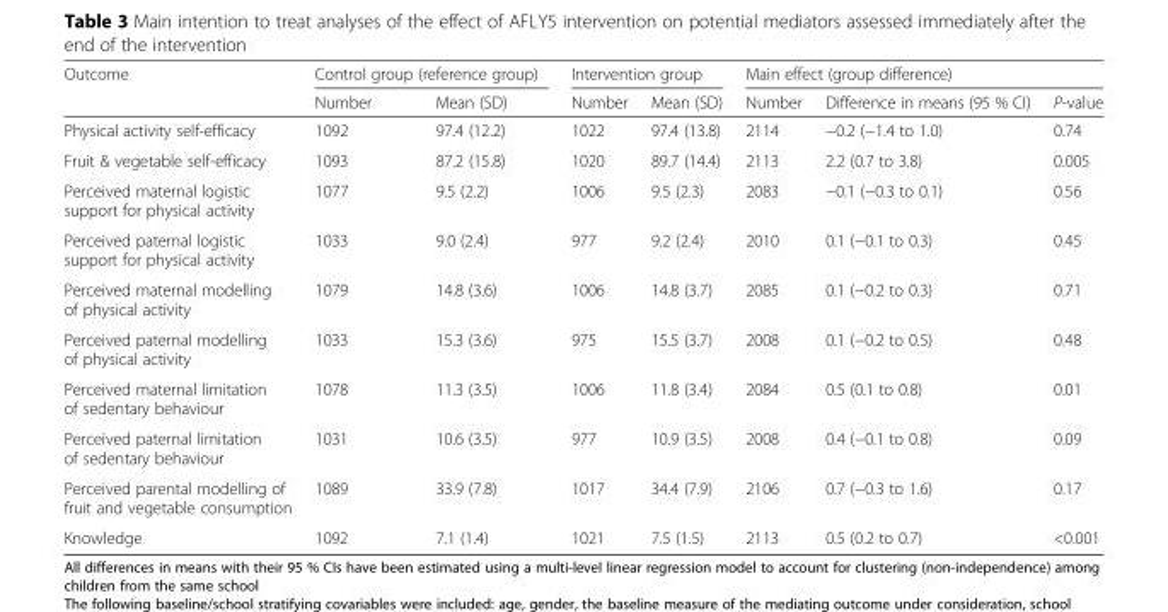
<table><thead><tr><td rowspan="2">Outcome</td><td colspan="2">Control group (reference group)</td><td colspan="2">Intervention group</td><td colspan="3">Main effect (group difference)</td></tr><tr><td>Number</td><td>Mean (SD)</td><td>Number</td><td>Mean (SD)</td><td>Number</td><td>Difference in means (95 % CI)</td><td>P-value</td></tr></thead><tbody><tr><td>Physical activity self-efficacy</td><td>1092</td><td>97.4 (12.2)</td><td>1022</td><td>97.4 (13.8)</td><td>2114</td><td>−0.2 (−1.4 to 1.0)</td><td>0.74</td></tr><tr><td>Fruit &amp; vegetable self-efficacy</td><td>1093</td><td>87.2 (15.8)</td><td>1020</td><td>89.7 (14.4)</td><td>2113</td><td>2.2 (0.7 to 3.8)</td><td>0.005</td></tr><tr><td>Perceived maternal logistic support for physical activity</td><td>1077</td><td>9.5 (2.2)</td><td>1006</td><td>9.5 (2.3)</td><td>2083</td><td>−0.1 (−0.3 to 0.1)</td><td>0.56</td></tr><tr><td>Perceived paternal logistic support for physical activity</td><td>1033</td><td>9.0 (2.4)</td><td>977</td><td>9.2 (2.4)</td><td>2010</td><td>0.1 (−0.1 to 0.3)</td><td>0.45</td></tr><tr><td>Perceived maternal modelling of physical activity</td><td>1079</td><td>14.8 (3.6)</td><td>1006</td><td>14.8 (3.7)</td><td>2085</td><td>0.1 (−0.2 to 0.3)</td><td>0.71</td></tr><tr><td>Perceived paternal modelling of physical activity</td><td>1033</td><td>15.3 (3.6)</td><td>975</td><td>15.5 (3.7)</td><td>2008</td><td>0.1 (−0.2 to 0.5)</td><td>0.48</td></tr><tr><td>Perceived maternal limitation of sedentary behaviour</td><td>1078</td><td>11.3 (3.5)</td><td>1006</td><td>11.8 (3.4)</td><td>2084</td><td>0.5 (0.1 to 0.8)</td><td>0.01</td></tr><tr><td>Perceived paternal limitation of sedentary behaviour</td><td>1031</td><td>10.6 (3.5)</td><td>977</td><td>10.9 (3.5)</td><td>2008</td><td>0.4 (−0.1 to 0.8)</td><td>0.09</td></tr><tr><td>Perceived parental modelling of fruit and vegetable consumption</td><td>1089</td><td>33.9 (7.8)</td><td>1017</td><td>34.4 (7.9)</td><td>2106</td><td>0.7 (−0.3 to 1.6)</td><td>0.17</td></tr><tr><td>Knowledge</td><td>1092</td><td>7.1 (1.4)</td><td>1021</td><td>7.5 (1.5)</td><td>2113</td><td>0.5 (0.2 to 0.7)</td><td>&lt;0.001</td></tr></tbody></table>